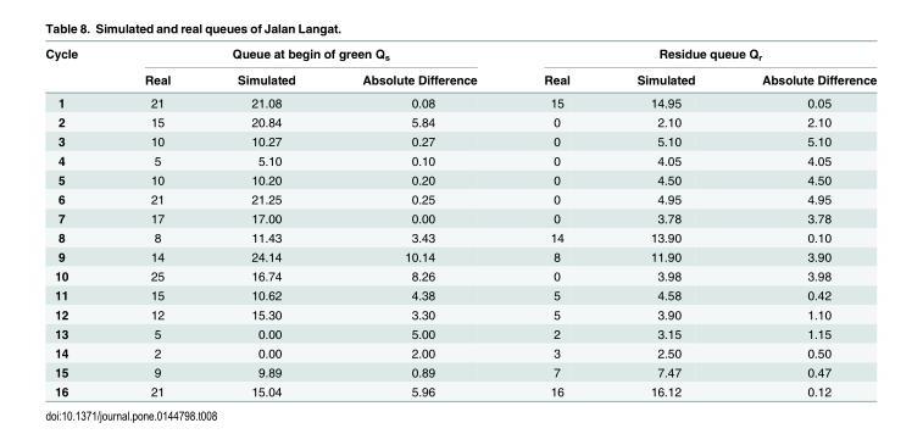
<table><thead><tr><td rowspan="2">Cycle</td><td colspan="3">Queue at begin of green Q<sub>s</sub></td><td colspan="3">Residue queue Q<sub>r</sub></td></tr><tr><td>Real</td><td>Simulated</td><td>Absolute Difference</td><td>Real</td><td>Simulated</td><td>Absolute Difference</td></tr></thead><tbody><tr><td>1</td><td>21</td><td>21.08</td><td>0.08</td><td>15</td><td>14.95</td><td>0.05</td></tr><tr><td>2</td><td>15</td><td>20.84</td><td>5.84</td><td>0</td><td>2.10</td><td>2.10</td></tr><tr><td>3</td><td>10</td><td>10.27</td><td>0.27</td><td>0</td><td>5.10</td><td>5.10</td></tr><tr><td>4</td><td>5</td><td>5.10</td><td>0.10</td><td>0</td><td>4.05</td><td>4.05</td></tr><tr><td>5</td><td>10</td><td>10.20</td><td>0.20</td><td>0</td><td>4.50</td><td>4.50</td></tr><tr><td>6</td><td>21</td><td>21.25</td><td>0.25</td><td>0</td><td>4.95</td><td>4.95</td></tr><tr><td>7</td><td>17</td><td>17.00</td><td>0.00</td><td>0</td><td>3.78</td><td>3.78</td></tr><tr><td>8</td><td>8</td><td>11.43</td><td>3.43</td><td>14</td><td>13.90</td><td>0.10</td></tr><tr><td>9</td><td>14</td><td>24.14</td><td>10.14</td><td>8</td><td>11.90</td><td>3.90</td></tr><tr><td>10</td><td>25</td><td>16.74</td><td>8.26</td><td>0</td><td>3.98</td><td>3.98</td></tr><tr><td>11</td><td>15</td><td>10.62</td><td>4.38</td><td>5</td><td>4.58</td><td>0.42</td></tr><tr><td>12</td><td>12</td><td>15.30</td><td>3.30</td><td>5</td><td>3.90</td><td>1.10</td></tr><tr><td>13</td><td>5</td><td>0.00</td><td>5.00</td><td>2</td><td>3.15</td><td>1.15</td></tr><tr><td>14</td><td>2</td><td>0.00</td><td>2.00</td><td>3</td><td>2.50</td><td>0.50</td></tr><tr><td>15</td><td>9</td><td>9.89</td><td>0.89</td><td>7</td><td>7.47</td><td>0.47</td></tr><tr><td>16</td><td>21</td><td>15.04</td><td>5.96</td><td>16</td><td>16.12</td><td>0.12</td></tr></tbody></table>